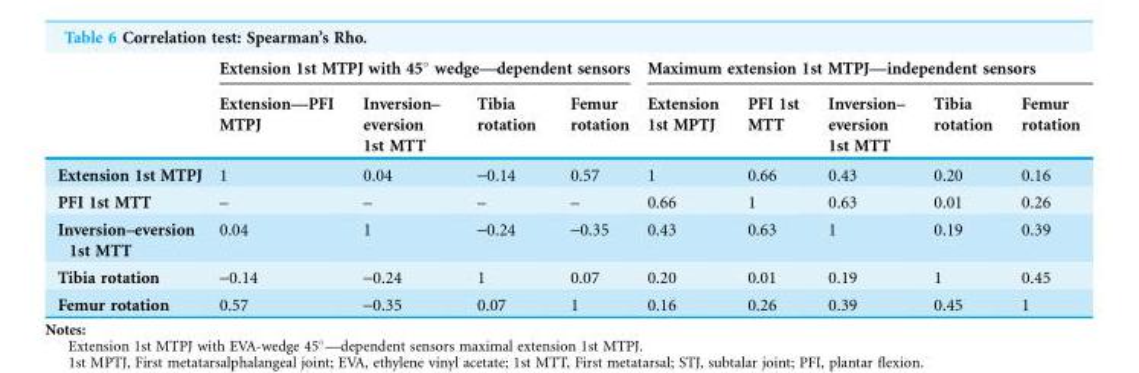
<table><thead><tr><td rowspan="2"></td><td colspan="4">Extension 1st MTPJ with 45° wedge—dependent sensors</td><td colspan="5">Maximum extension 1st MTPJ—independent sensors</td></tr><tr><td>Extension—PFI MTPJ</td><td>Inversion– eversion 1st MTT</td><td>Tibia rotation</td><td>Femur rotation</td><td>Extension 1st MPTJ</td><td>PFI 1st MTT</td><td>Inversion– eversion 1st MTT</td><td>Tibia rotation</td><td>Femur rotation</td></tr></thead><tbody><tr><td>Extension 1st MTPJ</td><td>1</td><td>0.04</td><td>-0.14</td><td>0.57</td><td>1</td><td>0.66</td><td>0.43</td><td>0.20</td><td>0.16</td></tr><tr><td>PFI 1st MTT</td><td>–</td><td>–</td><td>–</td><td>–</td><td>0.66</td><td>1</td><td>0.63</td><td>0.01</td><td>0.26</td></tr><tr><td>Inversion–eversion 1st MTT</td><td>0.04</td><td>1</td><td>-0.24</td><td>-0.35</td><td>0.43</td><td>0.63</td><td>1</td><td>0.19</td><td>0.39</td></tr><tr><td>Tibia rotation</td><td>-0.14</td><td>-0.24</td><td>1</td><td>0.07</td><td>0.20</td><td>0.01</td><td>0.19</td><td>1</td><td>0.45</td></tr><tr><td>Femur rotation</td><td>0.57</td><td>-0.35</td><td>0.07</td><td>1</td><td>0.16</td><td>0.26</td><td>0.39</td><td>0.45</td><td>1</td></tr></tbody></table>